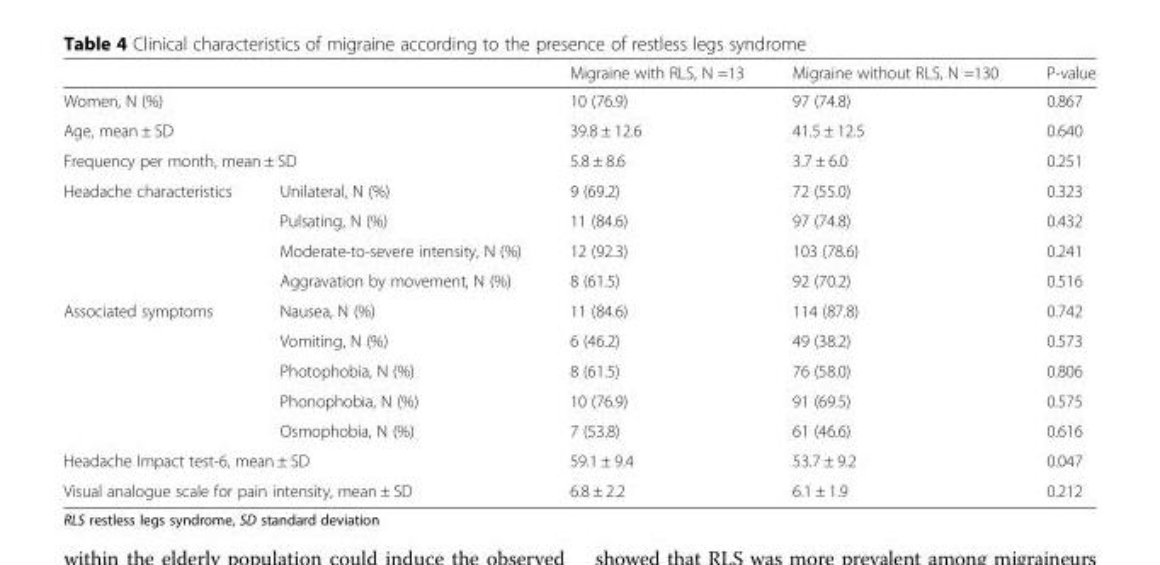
<table><thead><tr><td></td><td></td><td>Migraine with RLS, N =13</td><td>Migraine without RLS, N =130</td><td>P-value</td></tr></thead><tbody><tr><td colspan="2">Women, N (%)</td><td>10 (76.9)</td><td>97 (74.8)</td><td>0.867</td></tr><tr><td colspan="2">Age, mean ± SD</td><td>39.8 ± 12.6</td><td>41.5 ± 12.5</td><td>0.640</td></tr><tr><td colspan="2">Frequency per month, mean ± SD</td><td>5.8 ± 8.6</td><td>3.7 ± 6.0</td><td>0.251</td></tr><tr><td rowspan="4">Headache characteristics</td><td>Unilateral, N (%)</td><td>9 (69.2)</td><td>72 (55.0)</td><td>0.323</td></tr><tr><td>Pulsating, N (%)</td><td>11 (84.6)</td><td>97 (74.8)</td><td>0.432</td></tr><tr><td>Moderate-to-severe intensity, N (%)</td><td>12 (92.3)</td><td>103 (78.6)</td><td>0.241</td></tr><tr><td>Aggravation by movement, N (%)</td><td>8 (61.5)</td><td>92 (70.2)</td><td>0.516</td></tr><tr><td rowspan="5">Associated symptoms</td><td>Nausea, N (%)</td><td>11 (84.6)</td><td>114 (87.8)</td><td>0.742</td></tr><tr><td>Vomiting, N (%)</td><td>6 (46.2)</td><td>49 (38.2)</td><td>0.573</td></tr><tr><td>Photophobia, N (%)</td><td>8 (61.5)</td><td>76 (58.0)</td><td>0.806</td></tr><tr><td>Phonophobia, N (%)</td><td>10 (76.9)</td><td>91 (69.5)</td><td>0.575</td></tr><tr><td>Osmophobia, N (%)</td><td>7 (53.8)</td><td>61 (46.6)</td><td>0.616</td></tr><tr><td colspan="2">Headache Impact test-6, mean ± SD</td><td>59.1 ± 9.4</td><td>53.7 ± 9.2</td><td>0.047</td></tr><tr><td colspan="2">Visual analogue scale for pain intensity, mean ± SD</td><td>6.8 ± 2.2</td><td>6.1 ± 1.9</td><td>0.212</td></tr></tbody></table>